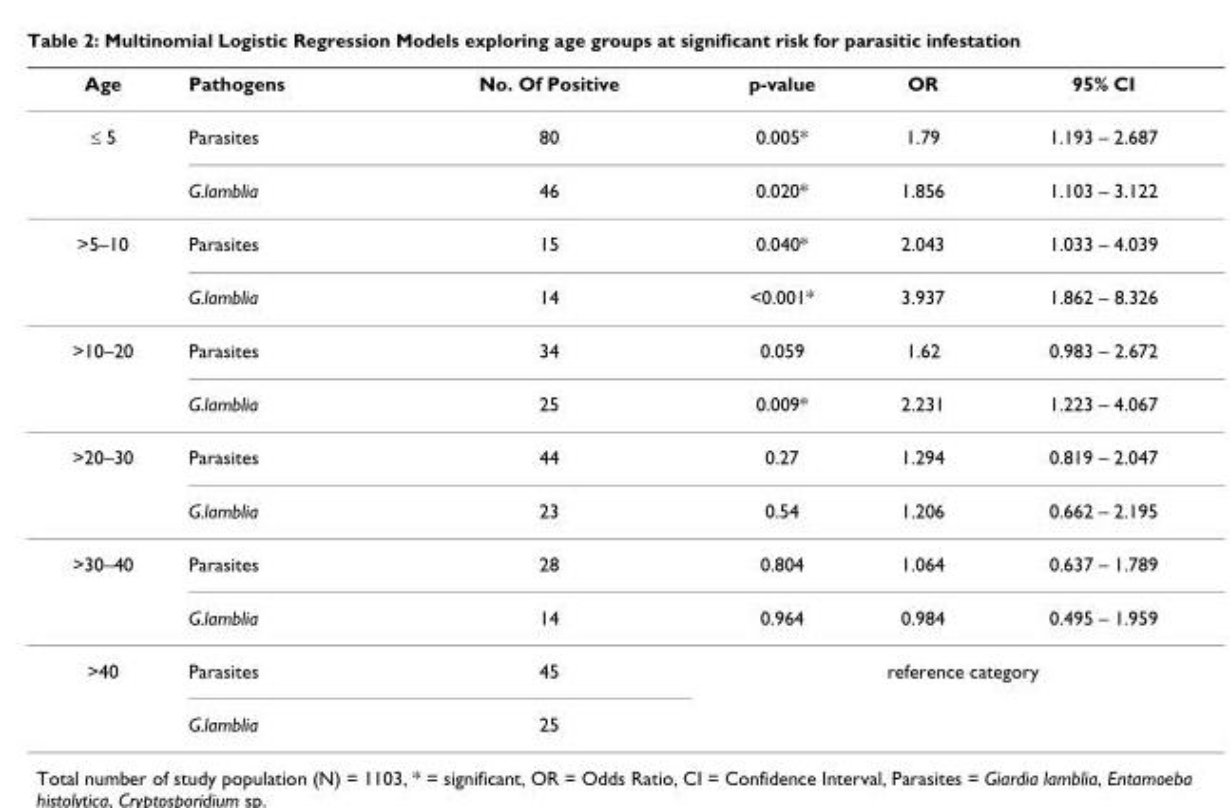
<table><thead><tr><td>Age</td><td>Pathogens</td><td>No. Of Positive</td><td>p-value</td><td>OR</td><td>95% CI</td></tr></thead><tbody><tr><td rowspan="2">≤ 5</td><td>Parasites</td><td>80</td><td>0.005*</td><td>1.79</td><td>1.193 – 2.687</td></tr><tr><td>G.lamblia</td><td>46</td><td>0.020*</td><td>1.856</td><td>1.103 – 3.122</td></tr><tr><td rowspan="2">&gt;5–10</td><td>Parasites</td><td>15</td><td>0.040*</td><td>2.043</td><td>1.033 – 4.039</td></tr><tr><td>G.lamblia</td><td>14</td><td>&lt;0.001*</td><td>3.937</td><td>1.862 – 8.326</td></tr><tr><td rowspan="2">&gt;10–20</td><td>Parasites</td><td>34</td><td>0.059</td><td>1.62</td><td>0.983 – 2.672</td></tr><tr><td>G.lamblia</td><td>25</td><td>0.009*</td><td>2.231</td><td>1.223 – 4.067</td></tr><tr><td rowspan="2">&gt;20–30</td><td>Parasites</td><td>44</td><td>0.27</td><td>1.294</td><td>0.819 – 2.047</td></tr><tr><td>G.lamblia</td><td>23</td><td>0.54</td><td>1.206</td><td>0.662 – 2.195</td></tr><tr><td rowspan="2">&gt;30–40</td><td>Parasites</td><td>28</td><td>0.804</td><td>1.064</td><td>0.637 – 1.789</td></tr><tr><td>G.lamblia</td><td>14</td><td>0.964</td><td>0.984</td><td>0.495 – 1.959</td></tr><tr><td rowspan="2">&gt;40</td><td>Parasites</td><td>45</td><td colspan="3">reference category</td></tr><tr><td>G.lamblia</td><td>25</td><td></td><td></td><td></td></tr></tbody></table>